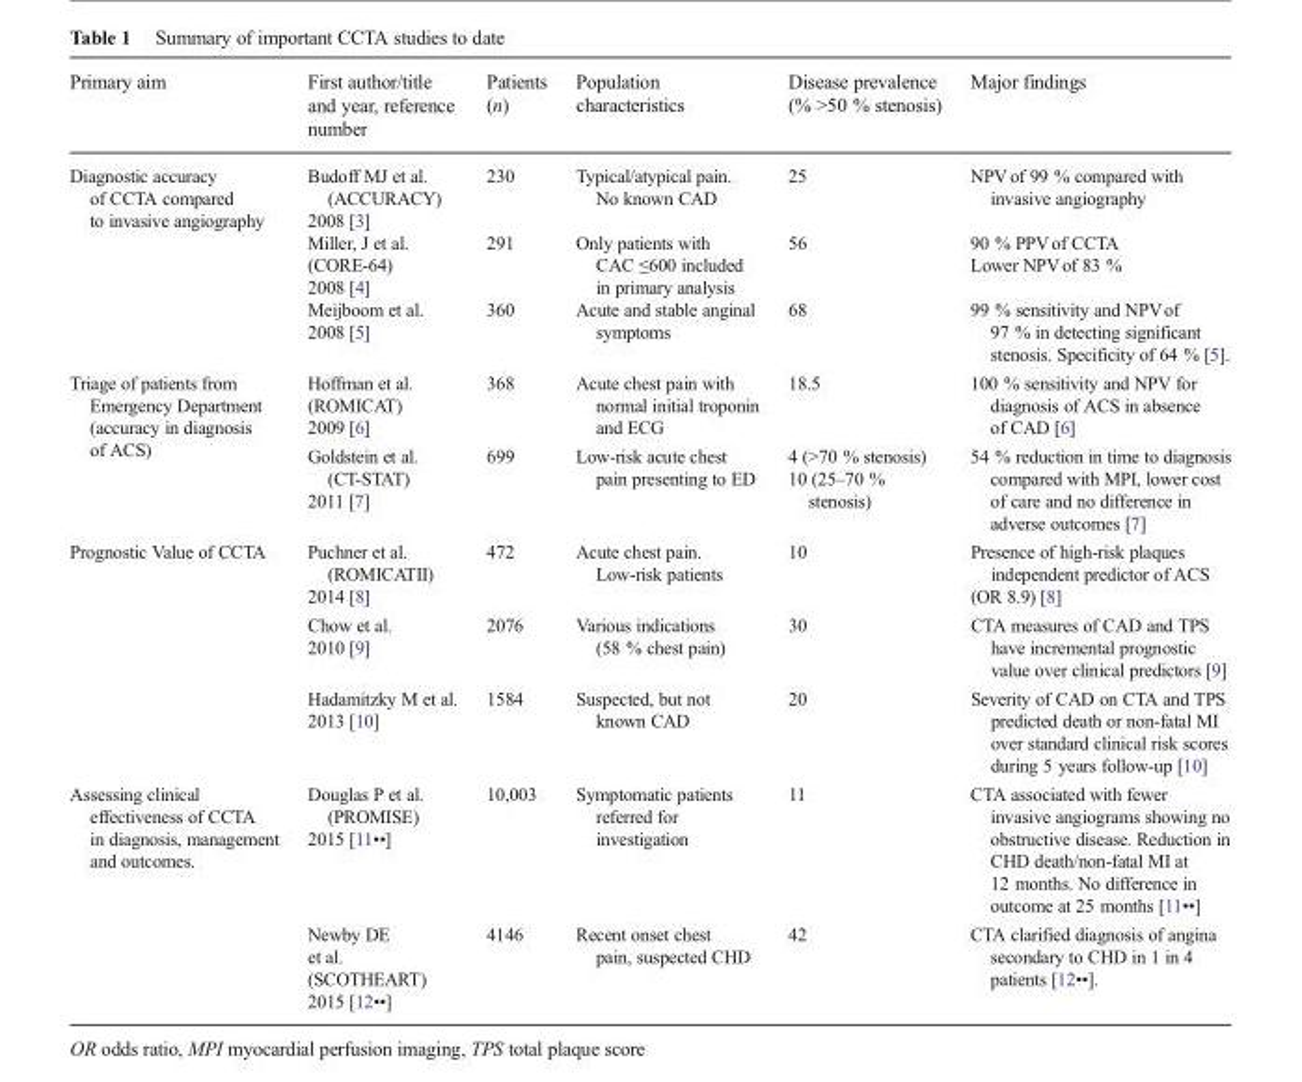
<table><thead><tr><td>Primary aim</td><td>First author/title and year, reference number</td><td>Patients (n)</td><td>Population characteristics</td><td>Disease prevalence (% &gt;50 % stenosis)</td><td>Major findings</td></tr></thead><tbody><tr><td rowspan="3">Diagnostic accuracy of CCTA compared to invasive angiography</td><td>Budoff MJ et al. (ACCURACY) 2008 [3]</td><td>230</td><td>Typical/atypical pain. No known CAD</td><td>25</td><td>NPVof 99 % compared with invasive angiography</td></tr><tr><td>Miller, J et al. (CORE-64) 2008 [4]</td><td>291</td><td>Only patients with CAC ≤600 included in primary analysis</td><td>56</td><td>90 % PPVof CCTA Lower NPVof 83 %</td></tr><tr><td>Meijboom et al. 2008 [5]</td><td>360</td><td>Acute and stable anginal symptoms</td><td>68</td><td>99 % sensitivity and NPVof 97 % in detecting significant stenosis. Specificity of 64 % [5].</td></tr><tr><td rowspan="2">Triage of patients from Emergency Department (accuracy in diagnosis of ACS)</td><td>Hoffman et al. (ROMICAT) 2009 [6]</td><td>368</td><td>Acute chest pain with normal initial troponin and ECG</td><td>18.5</td><td>100 % sensitivity and NPV for diagnosis of ACS in absence of CAD [6]</td></tr><tr><td>Goldstein et al. (CT-STAT) 2011 [7]</td><td>699</td><td>Low-risk acute chest pain presenting to ED</td><td>4 (&gt;70 % stenosis) 10 (25–70 % stenosis)</td><td>54 % reduction in time to diagnosis compared with MPI, lower cost of care and no difference in adverse outcomes [7]</td></tr><tr><td rowspan="3">Prognostic Value of CCTA</td><td>Puchner et al. (ROMICATII) 2014 [8]</td><td>472</td><td>Acute chest pain. Low-risk patients</td><td>10</td><td>Presence of high-risk plaques independent predictor of ACS (OR 8.9) [8]</td></tr><tr><td>Chow et al. 2010 [9]</td><td>2076</td><td>Various indications (58 % chest pain)</td><td>30</td><td>CTA measures of CAD and TPS have incremental prognostic value over clinical predictors [9]</td></tr><tr><td>Hadamitzky M et al. 2013 [10]</td><td>1584</td><td>Suspected, but not known CAD</td><td>20</td><td>Severity of CAD on CTA and TPS predicted death or non-fatal MI over standard clinical risk scores during 5 years follow-up [10]</td></tr><tr><td rowspan="2">Assessing clinical effectiveness of CCTA in diagnosis, management and outcomes.</td><td>Douglas P et al. (PROMISE) 2015 [11••]</td><td>10,003</td><td>Symptomatic patients referred for investigation</td><td>11</td><td>CTA associated with fewer invasive angiograms showing no obstructive disease. Reduction in CHD death/non-fatal MI at 12 months. No difference in outcome at 25 months [11••]</td></tr><tr><td>Newby DE et al. (SCOTHEART) 2015 [12••]</td><td>4146</td><td>Recent onset chest pain, suspected CHD</td><td>42</td><td>CTA clarified diagnosis of angina secondary to CHD in 1 in 4 patients [12••].</td></tr></tbody></table>